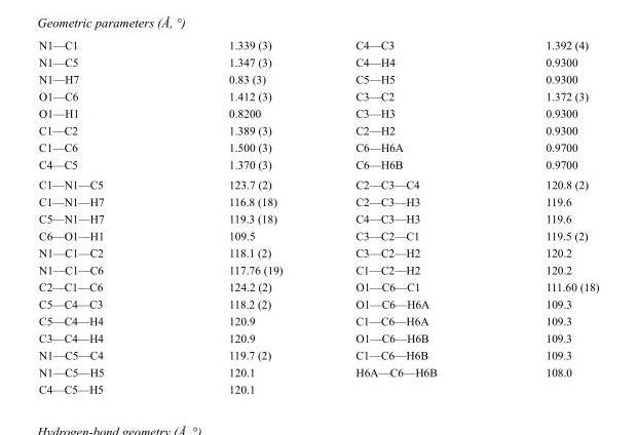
<table><tbody><tr><td>N1—C1</td><td>1.339 (3)</td><td>C4—C3</td><td>1.392 (4)</td></tr><tr><td>N1—C5</td><td>1.347 (3)</td><td>C4—H4</td><td>0.9300</td></tr><tr><td>N1—H7</td><td>0.83 (3)</td><td>C5—H5</td><td>0.9300</td></tr><tr><td>O1—C6</td><td>1.412 (3)</td><td>C3—C2</td><td>1.372 (3)</td></tr><tr><td>O1—H1</td><td>0.8200</td><td>C3—H3</td><td>0.9300</td></tr><tr><td>C1—C2</td><td>1.389 (3)</td><td>C2—H2</td><td>0.9300</td></tr><tr><td>C1—C6</td><td>1.500 (3)</td><td>C6—H6A</td><td>0.9700</td></tr><tr><td>C4—C5</td><td>1.370 (3)</td><td>C6—H6B</td><td>0.9700</td></tr><tr><td>C1—N1—C5</td><td>123.7 (2)</td><td>C2—C3—C4</td><td>120.8 (2)</td></tr><tr><td>C1—N1—H7</td><td>116.8 (18)</td><td>C2—C3—H3</td><td>119.6</td></tr><tr><td>C5—N1—H7</td><td>119.3 (18)</td><td>C4—C3—H3</td><td>119.6</td></tr><tr><td>C6—O1—H1</td><td>109.5</td><td>C3—C2—C1</td><td>119.5 (2)</td></tr><tr><td>N1—C1—C2</td><td>118.1 (2)</td><td>C3—C2—H2</td><td>120.2</td></tr><tr><td>N1—C1—C6</td><td>117.76 (19)</td><td>C1—C2—H2</td><td>120.2</td></tr><tr><td>C2—C1—C6</td><td>124.2 (2)</td><td>O1—C6—C1</td><td>111.60 (18)</td></tr><tr><td>C5—C4—C3</td><td>118.2 (2)</td><td>O1—C6—H6A</td><td>109.3</td></tr><tr><td>C5—C4—H4</td><td>120.9</td><td>C1—C6—H6A</td><td>109.3</td></tr><tr><td>C3—C4—H4</td><td>120.9</td><td>O1—C6—H6B</td><td>109.3</td></tr><tr><td>N1—C5—C4</td><td>119.7 (2)</td><td>C1—C6—H6B</td><td>109.3</td></tr><tr><td>N1—C5—H5</td><td>120.1</td><td>H6A—C6—H6B</td><td>108.0</td></tr><tr><td>C4—C5—H5</td><td>120.1</td><td></td><td></td></tr></tbody></table>